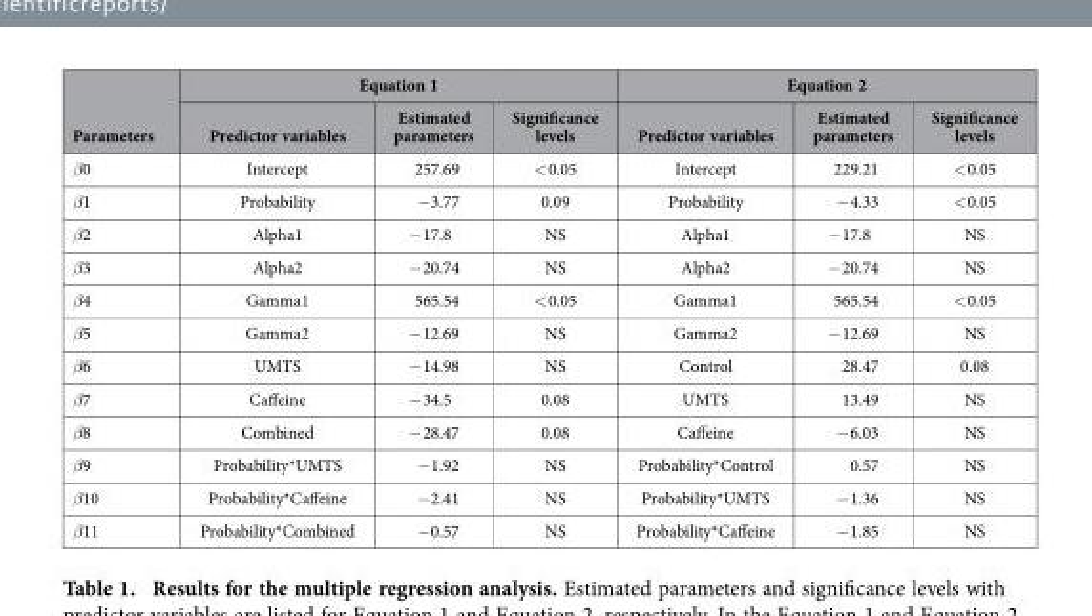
<table><thead><tr><td rowspan="2">Parameters</td><td colspan="3">Equation 1</td><td colspan="3">Equation 2</td></tr><tr><td>Predictor variables</td><td>Estimated parameters</td><td>Significance levels</td><td>Predictor variables</td><td>Estimated parameters</td><td>Significance levels</td></tr></thead><tbody><tr><td>β0</td><td>Intercept</td><td>257.69</td><td>&lt; 0.05</td><td>Intercept</td><td>229.21</td><td>&lt; 0.05</td></tr><tr><td>β1</td><td>Probability</td><td>− 3.77</td><td>0.09</td><td>Probability</td><td>− 4.33</td><td>&lt; 0.05</td></tr><tr><td>β2</td><td>Alpha1</td><td>− 17.8</td><td>NS</td><td>Alpha1</td><td>− 17.8</td><td>NS</td></tr><tr><td>β3</td><td>Alpha2</td><td>− 20.74</td><td>NS</td><td>Alpha2</td><td>− 20.74</td><td>NS</td></tr><tr><td>β4</td><td>Gamma1</td><td>565.54</td><td>&lt; 0.05</td><td>Gamma1</td><td>565.54</td><td>&lt; 0.05</td></tr><tr><td>β5</td><td>Gamma2</td><td>− 12.69</td><td>NS</td><td>Gamma2</td><td>− 12.69</td><td>NS</td></tr><tr><td>β6</td><td>UMTS</td><td>− 14.98</td><td>NS</td><td>Control</td><td>28.47</td><td>0.08</td></tr><tr><td>β7</td><td>Caffeine</td><td>− 34.5</td><td>0.08</td><td>UMTS</td><td>13.49</td><td>NS</td></tr><tr><td>β8</td><td>Combined</td><td>− 28.47</td><td>0.08</td><td>Caffeine</td><td>− 6.03</td><td>NS</td></tr><tr><td>β9</td><td>Probability*UMTS</td><td>− 1.92</td><td>NS</td><td>Probability*Control</td><td>0.57</td><td>NS</td></tr><tr><td>β10</td><td>Probability*Caffeine</td><td>− 2.41</td><td>NS</td><td>Probability*UMTS</td><td>− 1.36</td><td>NS</td></tr><tr><td>β11</td><td>Probability*Combined</td><td>− 0.57</td><td>NS</td><td>Probability*Caffeine</td><td>− 1.85</td><td>NS</td></tr></tbody></table>